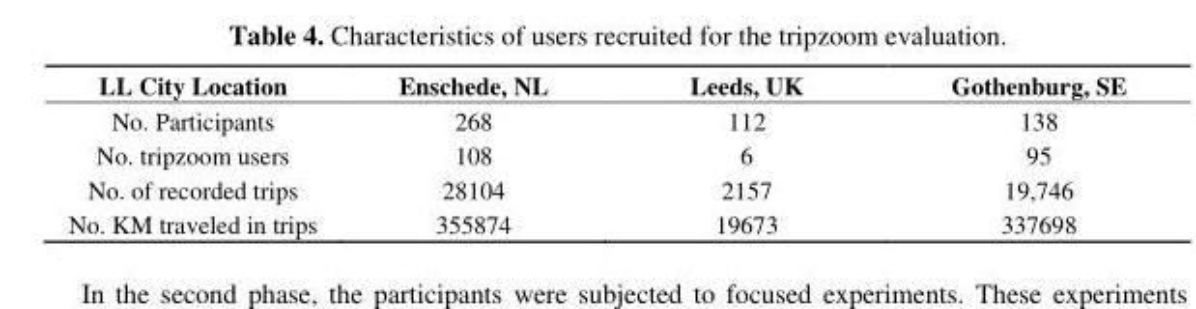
<table><thead><tr><td>LL City Location</td><td>Enschede, NL</td><td>Leeds, UK</td><td>Gothenburg, SE</td></tr></thead><tbody><tr><td>No. Participants</td><td>268</td><td>112</td><td>138</td></tr><tr><td>No. tripzoom users</td><td>108</td><td>6</td><td>95</td></tr><tr><td>No. of recorded trips</td><td>28104</td><td>2157</td><td>19,746</td></tr><tr><td>No. KM traveled in trips</td><td>355874</td><td>19673</td><td>337698</td></tr></tbody></table>